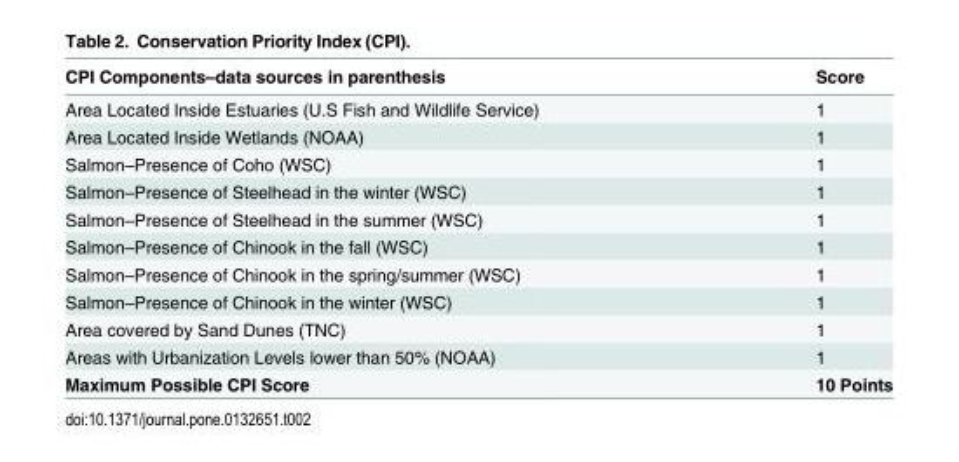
<table><thead><tr><td>CPI Components–data sources in parenthesis</td><td>Score</td></tr></thead><tbody><tr><td>Area Located Inside Estuaries (U.S Fish and Wildlife Service)</td><td>1</td></tr><tr><td>Area Located Inside Wetlands (NOAA)</td><td>1</td></tr><tr><td>Salmon–Presence of Coho (WSC)</td><td>1</td></tr><tr><td>Salmon–Presence of Steelhead in the winter (WSC)</td><td>1</td></tr><tr><td>Salmon–Presence of Steelhead in the summer (WSC)</td><td>1</td></tr><tr><td>Salmon–Presence of Chinook in the fall (WSC)</td><td>1</td></tr><tr><td>Salmon–Presence of Chinook in the spring/summer (WSC)</td><td>1</td></tr><tr><td>Salmon–Presence of Chinook in the winter (WSC)</td><td>1</td></tr><tr><td>Area covered by Sand Dunes (TNC)</td><td>1</td></tr><tr><td>Areas with Urbanization Levels lower than 50% (NOAA)</td><td>1</td></tr><tr><td>Maximum Possible CPI Score</td><td>10 Points</td></tr></tbody></table>